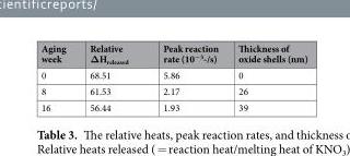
<table><thead><tr><td>Aging week</td><td>Relative ΔH<sub>released</sub></td><td>Peak reaction rate (10<sup>−3</sup>-/s)</td><td>Thickness of oxide shells (nm)</td></tr></thead><tbody><tr><td>0</td><td>68.51</td><td>5.86</td><td>0</td></tr><tr><td>8</td><td>61.53</td><td>2.17</td><td>26</td></tr><tr><td>16</td><td>56.44</td><td>1.93</td><td>39</td></tr></tbody></table>